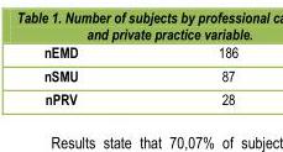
<table><tbody><tr><td>nEMD</td><td>186</td></tr><tr><td>nSMU</td><td>87</td></tr><tr><td>nPRV</td><td>28</td></tr></tbody></table>